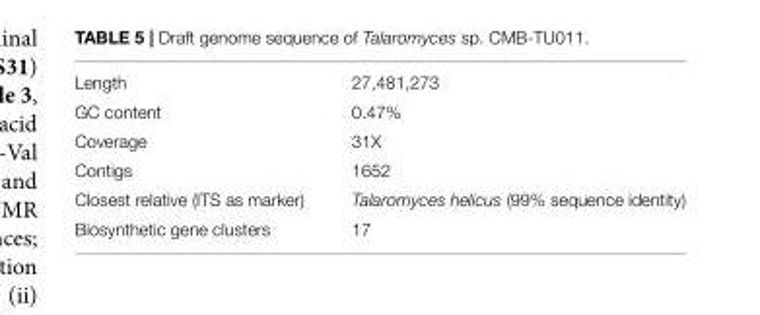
<table><tbody><tr><td>Length</td><td>27,481,273</td></tr><tr><td>GC content</td><td>0.47%</td></tr><tr><td>Coverage</td><td>31X</td></tr><tr><td>Contigs</td><td>1652</td></tr><tr><td>Closest relative (ITS as marker)</td><td>Talaromyces helicus (99% sequence identity)</td></tr><tr><td>Biosynthetic gene clusters</td><td>17</td></tr></tbody></table>